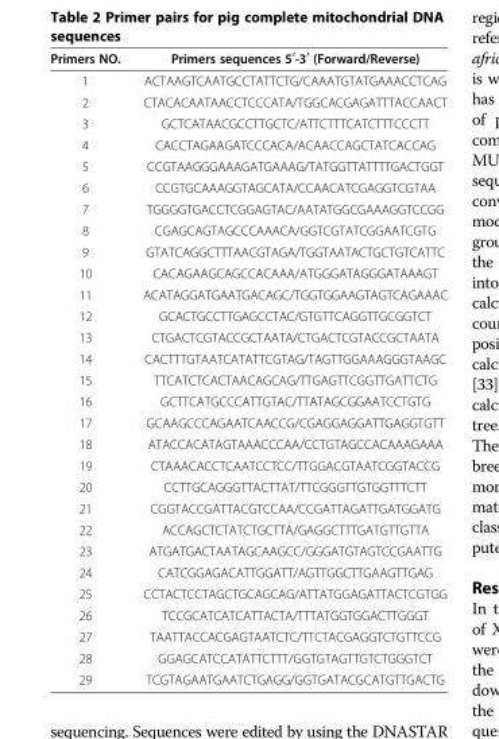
<table><thead><tr><td>Primers NO.</td><td>Primers sequences 5<sup>′</sup>-3<sup>′</sup> (Forward/Reverse)</td></tr></thead><tbody><tr><td>1</td><td>ACTAAGTCAATGCCTATTCTG/CAAATGTATGAAACCTCAG</td></tr><tr><td>2</td><td>CTACACAATAACCTCCCATA/TGGCACGAGATTTACCAACT</td></tr><tr><td>3</td><td>GCTCATAACGCCTTGCTC/ATTCTTTCATCTTTCCCTT</td></tr><tr><td>4</td><td>CACCTAGAAGATCCCACA/ACAACCAGCTATCACCAG</td></tr><tr><td>5</td><td>CCGTAAGGGAAAGATGAAAG/TATGGTTATTTTGACTGGT</td></tr><tr><td>6</td><td>CCGTGCAAAGGTAGCATA/CCAACATCGAGGTCGTAA</td></tr><tr><td>7</td><td>TGGGGTGACCTCGGAGTAC/AATATGGCGAAAGGTCCGG</td></tr><tr><td>8</td><td>CGAGCAGTAGCCCAAACA/GGTCGTATCGGAATCGTG</td></tr><tr><td>9</td><td>GTATCAGGCTTTAACGTAGA/TGGTAATACTGCTGTCATTC</td></tr><tr><td>10</td><td>CACAGAAGCAGCCACAAA/ATGGGATAGGGATAAAGT</td></tr><tr><td>11</td><td>ACATAGGATGAATGACAGC/TGGTGGAAGTAGTCAGAAAC</td></tr><tr><td>12</td><td>GCACTGCCTTGAGCCTAC/GTGTTCAGGTTGCGGTCT</td></tr><tr><td>13</td><td>CTGACTCGTACCGCTAATA/CTGACTCGTACCGCTAATA</td></tr><tr><td>14</td><td>CACTTTGTAATCATATTCGTAG/TAGTTGGAAAGGGTAAGC</td></tr><tr><td>15</td><td>TTCATCTCACTAACAGCAG/TTGAGTTCGGTTGATTCTG</td></tr><tr><td>16</td><td>GCTTCATGCCCATTGTAC/TTATAGCGGAATCCTGTG</td></tr><tr><td>17</td><td>GCAAGCCCAGAATCAACCG/CGAGGAGGATTGAGGTGTT</td></tr><tr><td>18</td><td>ATACCACATAGTAAACCCAA/CCTGTAGCCACAAAGAAA</td></tr><tr><td>19</td><td>CTAAACACCTCAATCCTCC/TTGGACGTAATCGGTACCG</td></tr><tr><td>20</td><td>CCTTGCAGGGTTACTTAT/TTCGGGTTGTGGTTTCTT</td></tr><tr><td>21</td><td>CGGTACCGATTACGTCCAA/CCGATTAGATTGATGGATG</td></tr><tr><td>22</td><td>ACCAGCTCTATCTGCTTA/GAGGCTTTGATGTTGTTA</td></tr><tr><td>23</td><td>ATGATGACTAATAGCAAGCC/GGGATGTAGTCCGAATTG</td></tr><tr><td>24</td><td>CATCGGAGACATTGGATT/AGTTGGCTTGAAGTTGAG</td></tr><tr><td>25</td><td>CCTACTCCTAGCTGCAGCAG/ATTATGGAGATTACTCGTGG</td></tr><tr><td>26</td><td>TCCGCATCATCATTACTA/TTTATGGTGGACTTGGGT</td></tr><tr><td>27</td><td>TAATTACCACGAGTAATCTC/TTCTACGAGGTCTGTTCCG</td></tr><tr><td>28</td><td>GGAGCATCCATATTCTTT/GGTGTAGTTGTCTGGGTCT</td></tr><tr><td>29</td><td>TCGTAGAATGAATCTGAGG/GGTGATACGCATGTTGACTG</td></tr></tbody></table>